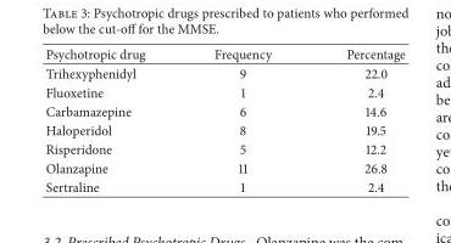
<table><thead><tr><td>Psychotropic drug</td><td>Frequency</td><td>Percentage</td></tr></thead><tbody><tr><td>Trihexyphenidyl</td><td>9</td><td>22.0</td></tr><tr><td>Fluoxetine</td><td>1</td><td>2.4</td></tr><tr><td>Carbamazepine</td><td>6</td><td>14.6</td></tr><tr><td>Haloperidol</td><td>8</td><td>19.5</td></tr><tr><td>Risperidone</td><td>5</td><td>12.2</td></tr><tr><td>Olanzapine</td><td>11</td><td>26.8</td></tr><tr><td>Sertraline</td><td>1</td><td>2.4</td></tr></tbody></table>